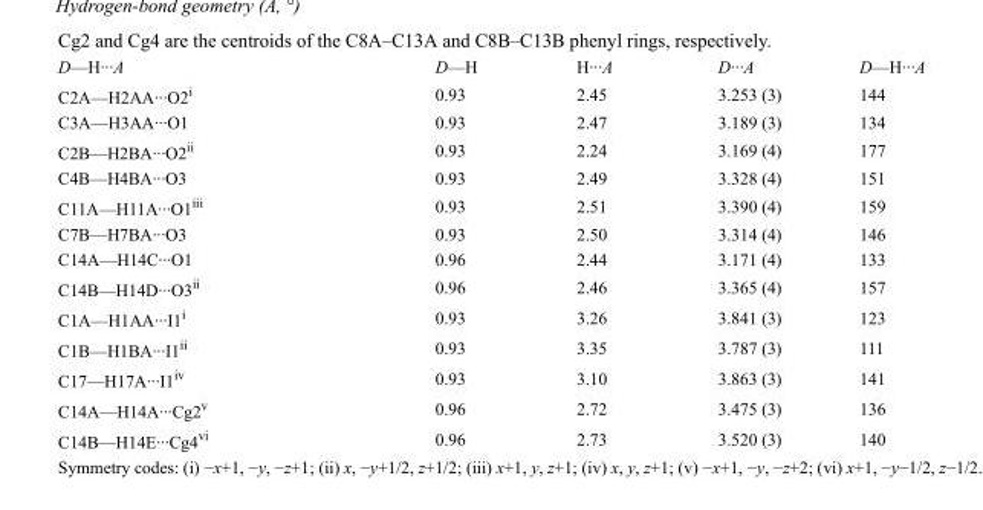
<table><tbody><tr><td>D—H···A</td><td>D—H</td><td>H···A</td><td>D···A</td><td>D—H···A</td></tr><tr><td>C2A—H2AA···O2<sup>i</sup></td><td>0.93</td><td>2.45</td><td>3.253 (3)</td><td>144</td></tr><tr><td>C3A—H3AA···O1</td><td>0.93</td><td>2.47</td><td>3.189 (3)</td><td>134</td></tr><tr><td>C2B—H2BA···O2<sup>ii</sup></td><td>0.93</td><td>2.24</td><td>3.169 (4)</td><td>177</td></tr><tr><td>C4B—H4BA···O3</td><td>0.93</td><td>2.49</td><td>3.328 (4)</td><td>151</td></tr><tr><td>C11A—H11A···O1<sup>iii</sup></td><td>0.93</td><td>2.51</td><td>3.390 (4)</td><td>159</td></tr><tr><td>C7B—H7BA···O3</td><td>0.93</td><td>2.50</td><td>3.314 (4)</td><td>146</td></tr><tr><td>C14A—H14C···O1</td><td>0.96</td><td>2.44</td><td>3.171 (4)</td><td>133</td></tr><tr><td>C14B—H14D···O3<sup>ii</sup></td><td>0.96</td><td>2.46</td><td>3.365 (4)</td><td>157</td></tr><tr><td>C1A—H1AA···I1<sup>i</sup></td><td>0.93</td><td>3.26</td><td>3.841 (3)</td><td>123</td></tr><tr><td>C1B—H1BA···I1<sup>ii</sup></td><td>0.93</td><td>3.35</td><td>3.787 (3)</td><td>111</td></tr><tr><td>C17—H17A···I1<sup>iv</sup></td><td>0.93</td><td>3.10</td><td>3.863 (3)</td><td>141</td></tr><tr><td>C14A—H14A···Cg2<sup>v</sup></td><td>0.96</td><td>2.72</td><td>3.475 (3)</td><td>136</td></tr><tr><td>C14B—H14E···Cg4<sup>vi</sup></td><td>0.96</td><td>2.73</td><td>3.520 (3)</td><td>140</td></tr></tbody></table>